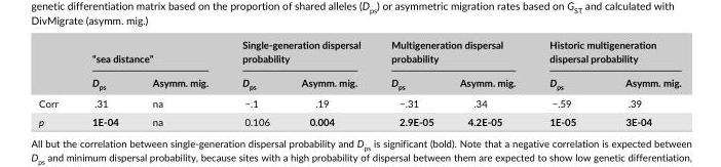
<table><thead><tr><td rowspan="2"></td><td colspan="2">“sea distance”</td><td colspan="2">Single- generation dispersal probability</td><td colspan="2">Multigeneration dispersal probability</td><td colspan="2">Historic multigeneration dispersal probability</td></tr><tr><td>D<sub>ps</sub></td><td>Asymm. mig.</td><td>D<sub>ps</sub></td><td>Asymm. mig.</td><td>D<sub>ps</sub></td><td>Asymm. mig.</td><td>D<sub>ps</sub></td><td>Asymm. mig.</td></tr></thead><tbody><tr><td>Corr</td><td>.31</td><td>na</td><td>−.1</td><td>.19</td><td>−.31</td><td>.34</td><td>−.59</td><td>.39</td></tr><tr><td>p</td><td>1E-04</td><td>na</td><td>0.106</td><td>0.004</td><td>2.9E-05</td><td>4.2E-05</td><td>1E-05</td><td>3E-04</td></tr></tbody></table>